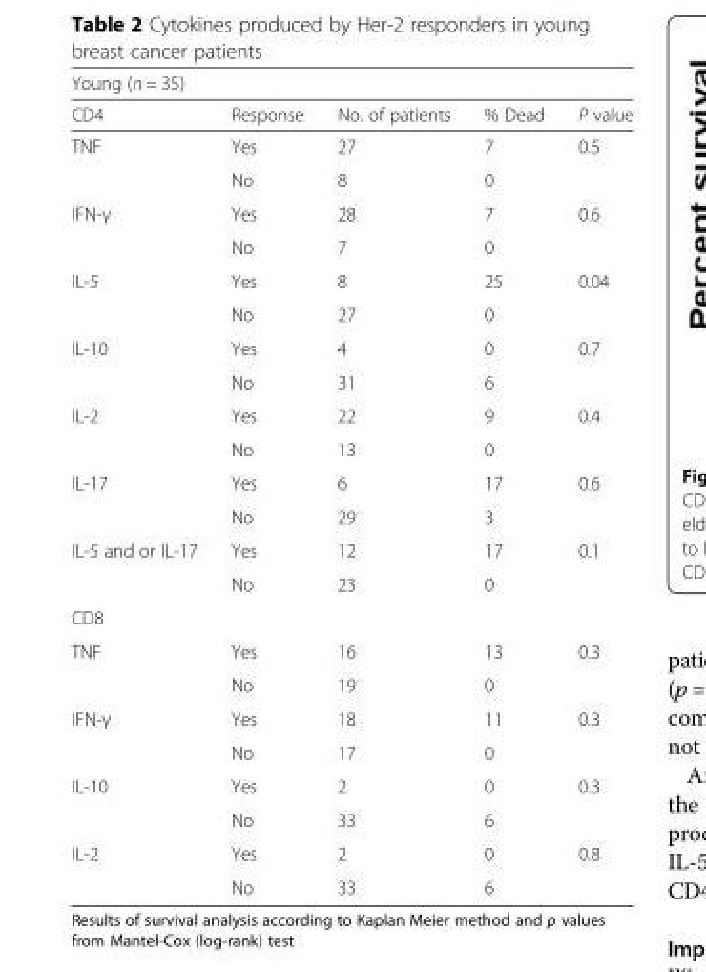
<table><thead><tr><td colspan="5">Young (n = 35)</td></tr><tr><td>CD4</td><td>Response</td><td>No. of patients</td><td>% Dead</td><td>P value</td></tr></thead><tbody><tr><td rowspan="2">TNF</td><td>Yes</td><td>27</td><td>7</td><td>0.5</td></tr><tr><td>No</td><td>8</td><td>0</td><td></td></tr><tr><td rowspan="2">IFN-γ</td><td>Yes</td><td>28</td><td>7</td><td>0.6</td></tr><tr><td>No</td><td>7</td><td>0</td><td></td></tr><tr><td rowspan="2">IL-5</td><td>Yes</td><td>8</td><td>25</td><td>0.04</td></tr><tr><td>No</td><td>27</td><td>0</td><td></td></tr><tr><td rowspan="2">IL-10</td><td>Yes</td><td>4</td><td>0</td><td>0.7</td></tr><tr><td>No</td><td>31</td><td>6</td><td></td></tr><tr><td rowspan="2">IL-2</td><td>Yes</td><td>22</td><td>9</td><td>0.4</td></tr><tr><td>No</td><td>13</td><td>0</td><td></td></tr><tr><td rowspan="2">IL-17</td><td>Yes</td><td>6</td><td>17</td><td>0.6</td></tr><tr><td>No</td><td>29</td><td>3</td><td></td></tr><tr><td rowspan="2">IL-5 and or IL-17</td><td>Yes</td><td>12</td><td>17</td><td>0.1</td></tr><tr><td>No</td><td>23</td><td>0</td><td></td></tr><tr><td colspan="5">CD8</td></tr><tr><td rowspan="2">TNF</td><td>Yes</td><td>16</td><td>13</td><td>0.3</td></tr><tr><td>No</td><td>19</td><td>0</td><td></td></tr><tr><td rowspan="2">IFN-γ</td><td>Yes</td><td>18</td><td>11</td><td>0.3</td></tr><tr><td>No</td><td>17</td><td>0</td><td></td></tr><tr><td rowspan="2">IL-10</td><td>Yes</td><td>2</td><td>0</td><td>0.3</td></tr><tr><td>No</td><td>33</td><td>6</td><td></td></tr><tr><td rowspan="2">IL-2</td><td>Yes</td><td>2</td><td>0</td><td>0.8</td></tr><tr><td>No</td><td>33</td><td>6</td><td></td></tr></tbody></table>